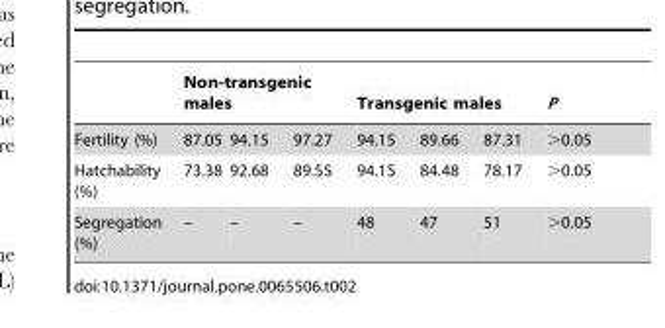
<table><thead><tr><td rowspan="2">Fertility (%)</td><td colspan="3">Non-transgenic males</td><td colspan="3">Transgenic males</td><td rowspan="2">P &gt;0.05</td></tr><tr><td>87.05</td><td>94.15</td><td>97.27</td><td>94.15</td><td>89.66</td><td>87.31</td></tr></thead><tbody><tr><td>Hatchability (%)</td><td>73.38</td><td>92.68</td><td>89.55</td><td>94.15</td><td>84.48</td><td>78.17</td><td>&gt;0.05</td></tr><tr><td>Segregation (%)</td><td>–</td><td>–</td><td>–</td><td>48</td><td>47</td><td>51</td><td>&gt;0.05</td></tr></tbody></table>